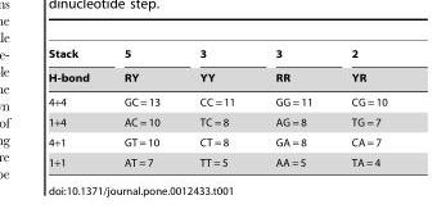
<table><thead><tr><td rowspan="2">Stack H-bond</td><td rowspan="2">5 RY</td><td rowspan="2">3 YY</td><td rowspan="2">3 RR</td><td rowspan="2">2 YR</td></tr><tr></tr></thead><tbody><tr><td>4+4</td><td>GC = 13</td><td>CC = 11</td><td>GG = 11</td><td>CG = 10</td></tr><tr><td>1+4</td><td>AC = 10</td><td>TC = 8</td><td>AG = 8</td><td>TG = 7</td></tr><tr><td>4+1</td><td>GT = 10</td><td>CT = 8</td><td>GA = 8</td><td>CA = 7</td></tr><tr><td>1+1</td><td>AT = 7</td><td>TT = 5</td><td>AA = 5</td><td>TA = 4</td></tr></tbody></table>